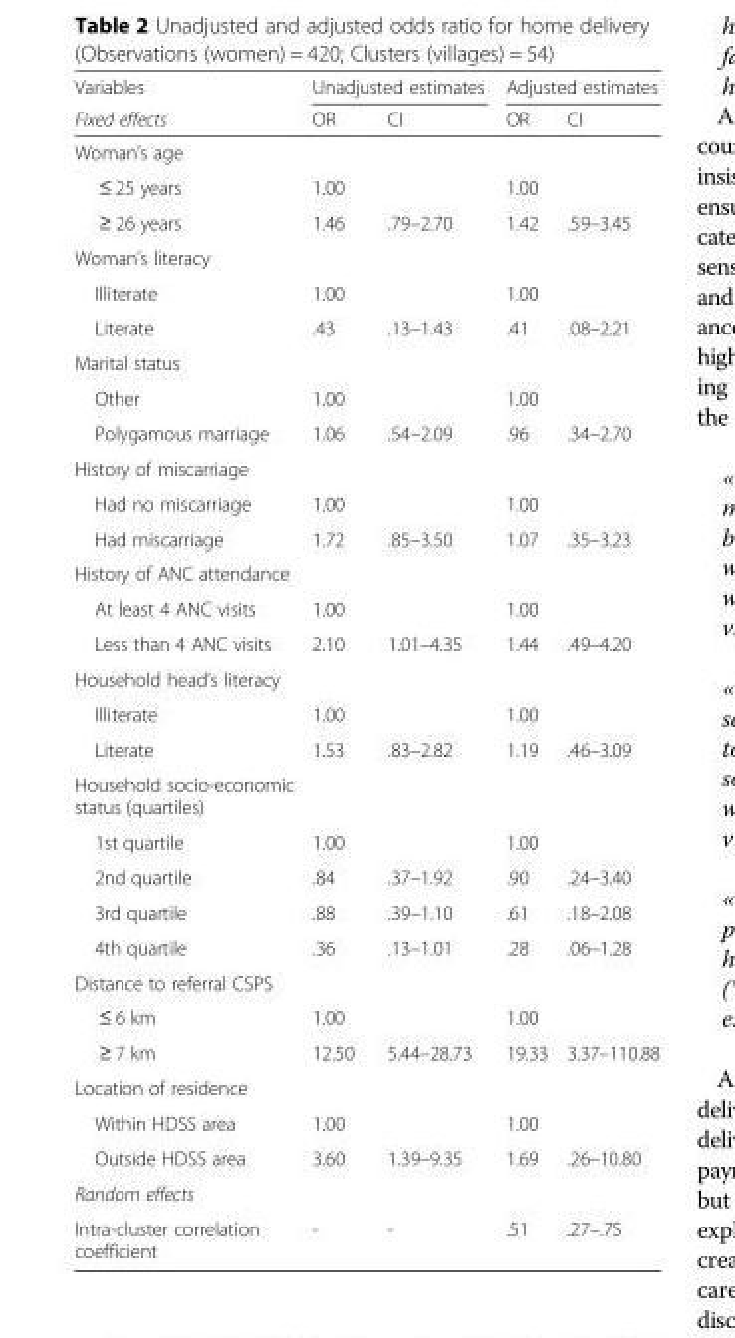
<table><thead><tr><td rowspan="2">Variables Fixed effects</td><td colspan="2">Unadjusted estimates</td><td colspan="2">Adjusted estimates</td></tr><tr><td>OR</td><td>CI</td><td>OR</td><td>CI</td></tr></thead><tbody><tr><td colspan="5">Woman’s age</td></tr><tr><td>≤ 25 years</td><td>1.00</td><td></td><td>1.00</td><td></td></tr><tr><td>≥ 26 years</td><td>1.46</td><td>.79–2.70</td><td>1.42</td><td>.59–3.45</td></tr><tr><td colspan="5">Woman’s literacy</td></tr><tr><td>Illiterate</td><td>1.00</td><td></td><td>1.00</td><td></td></tr><tr><td>Literate</td><td>.43</td><td>.13–1.43</td><td>.41</td><td>.08–2.21</td></tr><tr><td colspan="5">Marital status</td></tr><tr><td>Other</td><td>1.00</td><td></td><td>1.00</td><td></td></tr><tr><td>Polygamous marriage</td><td>1.06</td><td>.54–2.09</td><td>.96</td><td>.34–2.70</td></tr><tr><td colspan="5">History of miscarriage</td></tr><tr><td>Had no miscarriage</td><td>1.00</td><td></td><td>1.00</td><td></td></tr><tr><td>Had miscarriage</td><td>1.72</td><td>.85–3.50</td><td>1.07</td><td>.35–3.23</td></tr><tr><td colspan="5">History of ANC attendance</td></tr><tr><td>At least 4 ANC visits</td><td>1.00</td><td></td><td>1.00</td><td></td></tr><tr><td>Less than 4 ANC visits</td><td>2.10</td><td>1.01–4.35</td><td>1.44</td><td>.49–4.20</td></tr><tr><td colspan="5">Household head’s literacy</td></tr><tr><td>Illiterate</td><td>1.00</td><td></td><td>1.00</td><td></td></tr><tr><td>Literate</td><td>1.53</td><td>.83–2.82</td><td>1.19</td><td>.46–3.09</td></tr><tr><td colspan="5">Household socio-economic status (quartiles)</td></tr><tr><td>1st quartile</td><td>1.00</td><td></td><td>1.00</td><td></td></tr><tr><td>2nd quartile</td><td>.84</td><td>.37–1.92</td><td>.90</td><td>.24–3.40</td></tr><tr><td>3rd quartile</td><td>.88</td><td>.39–1.10</td><td>.61</td><td>.18–2.08</td></tr><tr><td>4th quartile</td><td>.36</td><td>.13–1.01</td><td>.28</td><td>.06–1.28</td></tr><tr><td colspan="5">Distance to referral CSPS</td></tr><tr><td>≤ 6 km</td><td>1.00</td><td></td><td>1.00</td><td></td></tr><tr><td>≥ 7 km</td><td>12.50</td><td>5.44–28.73</td><td>19.33</td><td>3.37–110.88</td></tr><tr><td colspan="5">Location of residence</td></tr><tr><td>Within HDSS area</td><td>1.00</td><td></td><td>1.00</td><td></td></tr><tr><td>Outside HDSS area</td><td>3.60</td><td>1.39–9.35</td><td>1.69</td><td>.26–10.80</td></tr><tr><td colspan="5">Random effects</td></tr><tr><td>Intra-cluster correlation coefficient</td><td>-</td><td>-</td><td>.51</td><td>.27–.75</td></tr></tbody></table>